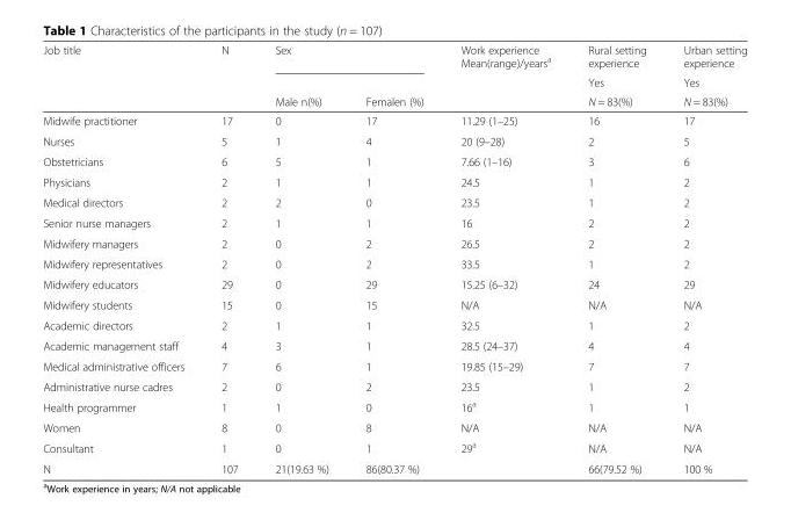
<table><thead><tr><td rowspan="3">Job title</td><td rowspan="3">N</td><td colspan="2">Sex</td><td rowspan="3">Work experience Mean(range)/years<sup>a</sup></td><td rowspan="3">Rural setting experience Yes N = 83(%)</td><td rowspan="3">Urban setting experience Yes N = 83(%)</td></tr><tr><td rowspan="2">Male n(%)</td><td rowspan="2">Femalen (%)</td></tr><tr></tr></thead><tbody><tr><td>Midwife practitioner</td><td>17</td><td>0</td><td>17</td><td>11.29 (1–25)</td><td>16</td><td>17</td></tr><tr><td>Nurses</td><td>5</td><td>1</td><td>4</td><td>20 (9–28)</td><td>2</td><td>5</td></tr><tr><td>Obstetricians</td><td>6</td><td>5</td><td>1</td><td>7.66 (1–16)</td><td>3</td><td>6</td></tr><tr><td>Physicians</td><td>2</td><td>1</td><td>1</td><td>24.5</td><td>1</td><td>2</td></tr><tr><td>Medical directors</td><td>2</td><td>2</td><td>0</td><td>23.5</td><td>1</td><td>2</td></tr><tr><td>Senior nurse managers</td><td>2</td><td>1</td><td>1</td><td>16</td><td>2</td><td>2</td></tr><tr><td>Midwifery managers</td><td>2</td><td>0</td><td>2</td><td>26.5</td><td>2</td><td>2</td></tr><tr><td>Midwifery representatives</td><td>2</td><td>0</td><td>2</td><td>33.5</td><td>1</td><td>2</td></tr><tr><td>Midwifery educators</td><td>29</td><td>0</td><td>29</td><td>15.25 (6–32)</td><td>24</td><td>29</td></tr><tr><td>Midwifery students</td><td>15</td><td>0</td><td>15</td><td>N/A</td><td>N/A</td><td>N/A</td></tr><tr><td>Academic directors</td><td>2</td><td>1</td><td>1</td><td>32.5</td><td>1</td><td>2</td></tr><tr><td>Academic management staff</td><td>4</td><td>3</td><td>1</td><td>28.5 (24–37)</td><td>4</td><td>4</td></tr><tr><td>Medical administrative officers</td><td>7</td><td>6</td><td>1</td><td>19.85 (15–29)</td><td>7</td><td>7</td></tr><tr><td>Administrative nurse cadres</td><td>2</td><td>0</td><td>2</td><td>23.5</td><td>1</td><td>2</td></tr><tr><td>Health programmer</td><td>1</td><td>1</td><td>0</td><td>16<sup>a</sup></td><td>1</td><td>1</td></tr><tr><td>Women</td><td>8</td><td>0</td><td>8</td><td>N/A</td><td>N/A</td><td>N/A</td></tr><tr><td>Consultant</td><td>1</td><td>0</td><td>1</td><td>29<sup>a</sup></td><td>N/A</td><td>N/A</td></tr><tr><td>N</td><td>107</td><td>21(19.63 %)</td><td>86(80.37 %)</td><td></td><td>66(79.52 %)</td><td>100 %</td></tr></tbody></table>